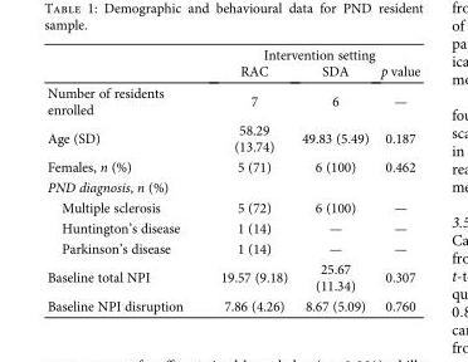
<table><thead><tr><td rowspan="2"></td><td colspan="3">Intervention setting</td></tr><tr><td>RAC</td><td>SDA</td><td>p value</td></tr></thead><tbody><tr><td>Number of residents enrolled</td><td>7</td><td>6</td><td>—</td></tr><tr><td>Age (SD)</td><td>58.29 (13.74)</td><td>49.83 (5.49)</td><td>0.187</td></tr><tr><td>Females, n (%)</td><td>5 (71)</td><td>6 (100)</td><td>0.462</td></tr><tr><td colspan="4">PND diagnosis, n (%)</td></tr><tr><td>Multiple sclerosis</td><td>5 (72)</td><td>6 (100)</td><td>—</td></tr><tr><td>Huntington’s disease</td><td>1 (14)</td><td>—</td><td>—</td></tr><tr><td>Parkinson’s disease</td><td>1 (14)</td><td>—</td><td>—</td></tr><tr><td>Baseline total NPI</td><td>19.57 (9.18)</td><td>25.67 (11.34)</td><td>0.307</td></tr><tr><td>Baseline NPI disruption</td><td>7.86 (4.26)</td><td>8.67 (5.09)</td><td>0.760</td></tr></tbody></table>